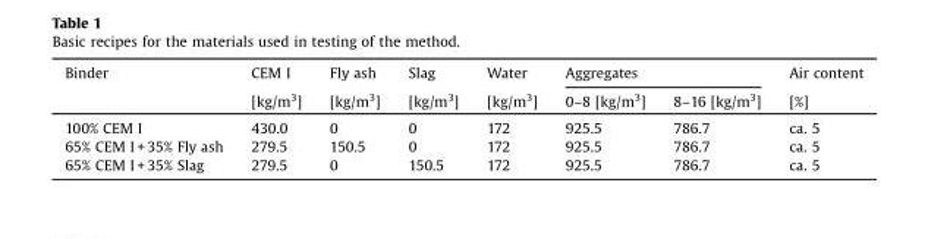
<table><thead><tr><td rowspan="2">Binder</td><td rowspan="2">CEM I [kg/m<sup>3</sup>]</td><td rowspan="2">Fly ash [kg/m<sup>3</sup>]</td><td rowspan="2">Slag [kg/m<sup>3</sup>]</td><td rowspan="2">Water [kg/m<sup>3</sup>]</td><td colspan="2">Aggregates</td><td rowspan="2">Air content [%]</td></tr><tr><td>0–8 [kg/m<sup>3</sup>]</td><td>8–16 [kg/m<sup>3</sup>]</td></tr></thead><tbody><tr><td>100% CEM I</td><td>430.0</td><td>0</td><td>0</td><td>172</td><td>925.5</td><td>786.7</td><td>ca. 5</td></tr><tr><td>65% CEM I + 35% Fly ash</td><td>279.5</td><td>150.5</td><td>0</td><td>172</td><td>925.5</td><td>786.7</td><td>ca. 5</td></tr><tr><td>65% CEM I + 35% Slag</td><td>279.5</td><td>0</td><td>150.5</td><td>172</td><td>925.5</td><td>786.7</td><td>ca. 5</td></tr></tbody></table>